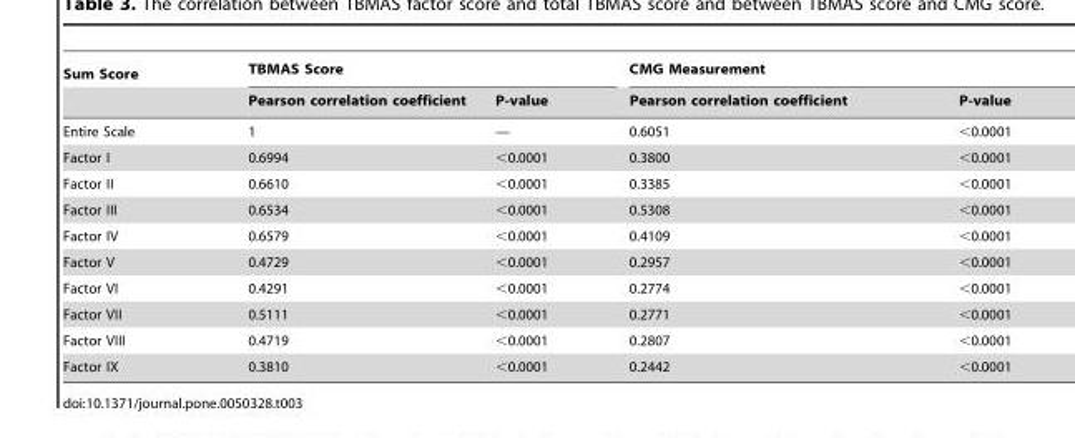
<table><thead><tr><td rowspan="2">Sum Score</td><td colspan="2">TBMAS Score</td><td colspan="2">CMG Measurement</td></tr><tr><td>Pearson correlation coefficient</td><td>P-value</td><td>Pearson correlation coefficient</td><td>P-value</td></tr></thead><tbody><tr><td>Entire Scale</td><td>1</td><td>—</td><td>0.6051</td><td>&lt;0.0001</td></tr><tr><td>Factor I</td><td>0.6994</td><td>&lt;0.0001</td><td>0.3800</td><td>&lt;0.0001</td></tr><tr><td>Factor II</td><td>0.6610</td><td>&lt;0.0001</td><td>0.3385</td><td>&lt;0.0001</td></tr><tr><td>Factor III</td><td>0.6534</td><td>&lt;0.0001</td><td>0.5308</td><td>&lt;0.0001</td></tr><tr><td>Factor IV</td><td>0.6579</td><td>&lt;0.0001</td><td>0.4109</td><td>&lt;0.0001</td></tr><tr><td>Factor V</td><td>0.4729</td><td>&lt;0.0001</td><td>0.2957</td><td>&lt;0.0001</td></tr><tr><td>Factor VI</td><td>0.4291</td><td>&lt;0.0001</td><td>0.2774</td><td>&lt;0.0001</td></tr><tr><td>Factor VII</td><td>0.5111</td><td>&lt;0.0001</td><td>0.2771</td><td>&lt;0.0001</td></tr><tr><td>Factor VIII</td><td>0.4719</td><td>&lt;0.0001</td><td>0.2807</td><td>&lt;0.0001</td></tr><tr><td>Factor IX</td><td>0.3810</td><td>&lt;0.0001</td><td>0.2442</td><td>&lt;0.0001</td></tr></tbody></table>